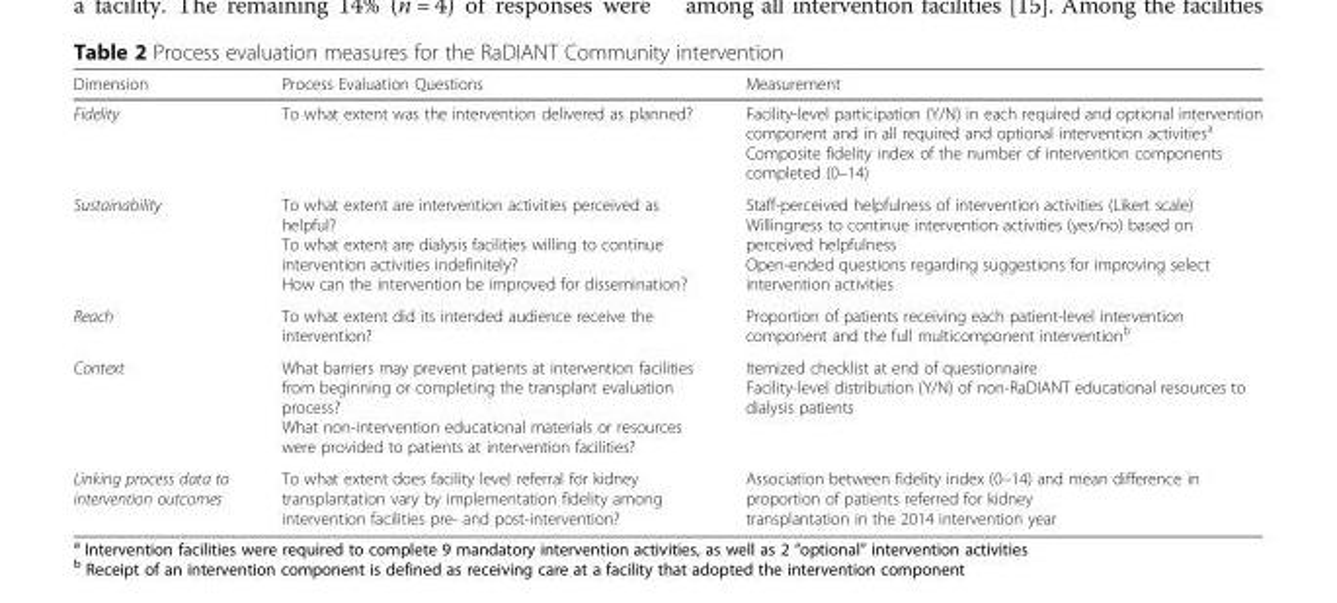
<table><thead><tr><td>Dimension</td><td>Process Evaluation Questions</td><td>Measurement</td></tr></thead><tbody><tr><td>Fidelity</td><td>To what extent was the intervention delivered as planned?</td><td>Facility-level participation (Y/N) in each required and optional intervention component and in all required and optional intervention activities<sup>a</sup> Composite fidelity index of the number of intervention components completed (0–14)</td></tr><tr><td>Sustainability</td><td>To what extent are intervention activities perceived as helpful? To what extent are dialysis facilities willing to continue intervention activities indefinitely? How can the intervention be improved for dissemination?</td><td>Staff-perceived helpfulness of intervention activities (Likert scale) Willingness to continue intervention activities (yes/no) based on perceived helpfulness Open-ended questions regarding suggestions for improving select intervention activities</td></tr><tr><td>Reach</td><td>To what extent did its intended audience receive the intervention?</td><td>Proportion of patients receiving each patient-level intervention component and the full multicomponent intervention<sup>b</sup></td></tr><tr><td>Context</td><td>What barriers may prevent patients at intervention facilities from beginning or completing the transplant evaluation process? What non-intervention educational materials or resources were provided to patients at intervention facilities?</td><td>Itemized checklist at end of questionnaire Facility-level distribution (Y/N) of non-RaDIANT educational resources to dialysis patients</td></tr><tr><td>Linking process data to intervention outcomes</td><td>To what extent does facility level referral for kidney transplantation vary by implementation fidelity among intervention facilities pre- and post-intervention?</td><td>Association between fidelity index (0–14) and mean difference in proportion of patients referred for kidney transplantation in the 2014 intervention year</td></tr></tbody></table>